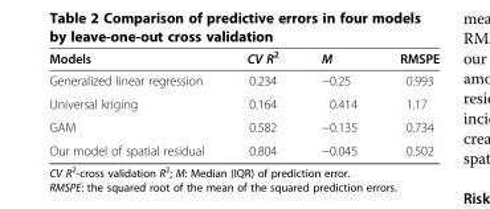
<table><thead><tr><td>Models</td><td>CV R<sup>2</sup></td><td>M</td><td>RMSPE</td></tr></thead><tbody><tr><td>Generalized linear regression</td><td>0.234</td><td>−0.25</td><td>0.993</td></tr><tr><td>Universal kriging</td><td>0.164</td><td>0.414</td><td>1.17</td></tr><tr><td>GAM</td><td>0.582</td><td>−0.135</td><td>0.734</td></tr><tr><td>Our model of spatial residual</td><td>0.804</td><td>−0.045</td><td>0.502</td></tr></tbody></table>